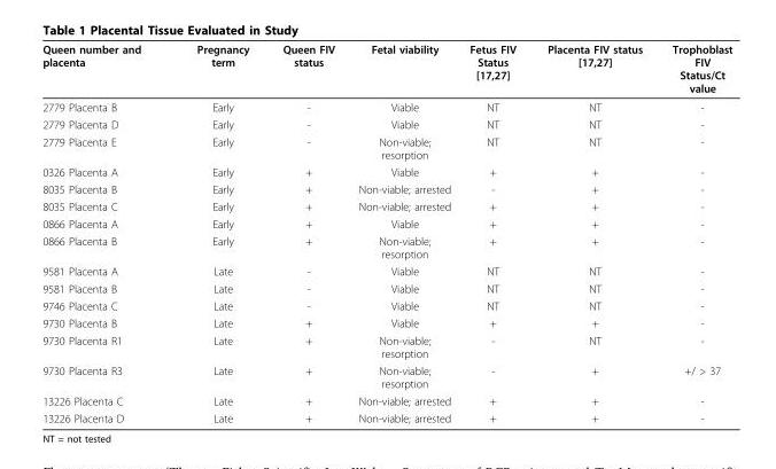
<table><thead><tr><td>Queen number and placenta</td><td>Pregnancy term</td><td>Queen FIV status</td><td>Fetal viability</td><td>Fetus FIV Status [17,27]</td><td>Placenta FIV status [17,27]</td><td>Trophoblast FIV Status/Ct value</td></tr></thead><tbody><tr><td>2779 Placenta B</td><td>Early</td><td>-</td><td>Viable</td><td>NT</td><td>NT</td><td>-</td></tr><tr><td>2779 Placenta D</td><td>Early</td><td>-</td><td>Viable</td><td>NT</td><td>NT</td><td>-</td></tr><tr><td>2779 Placenta E</td><td>Early</td><td>-</td><td>Non-viable; resorption</td><td>NT</td><td>NT</td><td>-</td></tr><tr><td>0326 Placenta A</td><td>Early</td><td>+</td><td>Viable</td><td>+</td><td>+</td><td>-</td></tr><tr><td>8035 Placenta B</td><td>Early</td><td>+</td><td>Non-viable; arrested</td><td>-</td><td>+</td><td>-</td></tr><tr><td>8035 Placenta C</td><td>Early</td><td>+</td><td>Non-viable; arrested</td><td>+</td><td>+</td><td>-</td></tr><tr><td>0866 Placenta A</td><td>Early</td><td>+</td><td>Viable</td><td>+</td><td>+</td><td>-</td></tr><tr><td>0866 Placenta B</td><td>Early</td><td>+</td><td>Non-viable; resorption</td><td>+</td><td>+</td><td>-</td></tr><tr><td>9581 Placenta A</td><td>Late</td><td>-</td><td>Viable</td><td>NT</td><td>NT</td><td>-</td></tr><tr><td>9581 Placenta B</td><td>Late</td><td>-</td><td>Viable</td><td>NT</td><td>NT</td><td>-</td></tr><tr><td>9746 Placenta C</td><td>Late</td><td>-</td><td>Viable</td><td>NT</td><td>NT</td><td>-</td></tr><tr><td>9730 Placenta B</td><td>Late</td><td>+</td><td>Viable</td><td>+</td><td>+</td><td>-</td></tr><tr><td>9730 Placenta R1</td><td>Late</td><td>+</td><td>Non-viable; resorption</td><td>-</td><td>NT</td><td>-</td></tr><tr><td>9730 Placenta R3</td><td>Late</td><td>+</td><td>Non-viable; resorption</td><td>-</td><td>+</td><td>+/ &gt; 37</td></tr><tr><td>13226 Placenta C</td><td>Late</td><td>+</td><td>Non-viable; arrested</td><td>+</td><td>+</td><td>-</td></tr><tr><td>13226 Placenta D</td><td>Late</td><td>+</td><td>Non-viable; arrested</td><td>+</td><td>+</td><td>-</td></tr></tbody></table>